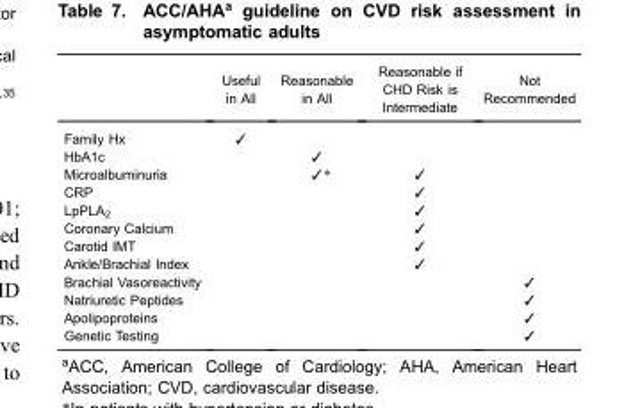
<table><thead><tr><td></td><td>Useful in All</td><td>Reasonable in All</td><td>Reasonable if CHD Risk is Intermediate</td><td>Not Recommended</td></tr></thead><tbody><tr><td>Family Hx</td><td>✓</td><td></td><td></td><td></td></tr><tr><td>HbA1c</td><td></td><td>✓</td><td></td><td></td></tr><tr><td>Microalbuminuria</td><td></td><td>✓*</td><td>✓</td><td></td></tr><tr><td>CRP</td><td></td><td></td><td>✓</td><td></td></tr><tr><td>LpPLA<sub>2</sub></td><td></td><td></td><td>✓</td><td></td></tr><tr><td>Coronary Calcium</td><td></td><td></td><td>✓</td><td></td></tr><tr><td>Carotid IMT</td><td></td><td></td><td>✓</td><td></td></tr><tr><td>Ankle/Brachial Index</td><td></td><td></td><td>✓</td><td></td></tr><tr><td>Brachial Vasoreactivity</td><td></td><td></td><td></td><td>✓</td></tr><tr><td>Natriuretic Peptides</td><td></td><td></td><td></td><td>✓</td></tr><tr><td>Apolipoproteins</td><td></td><td></td><td></td><td>✓</td></tr><tr><td>Genetic Testing</td><td></td><td></td><td></td><td>✓</td></tr></tbody></table>